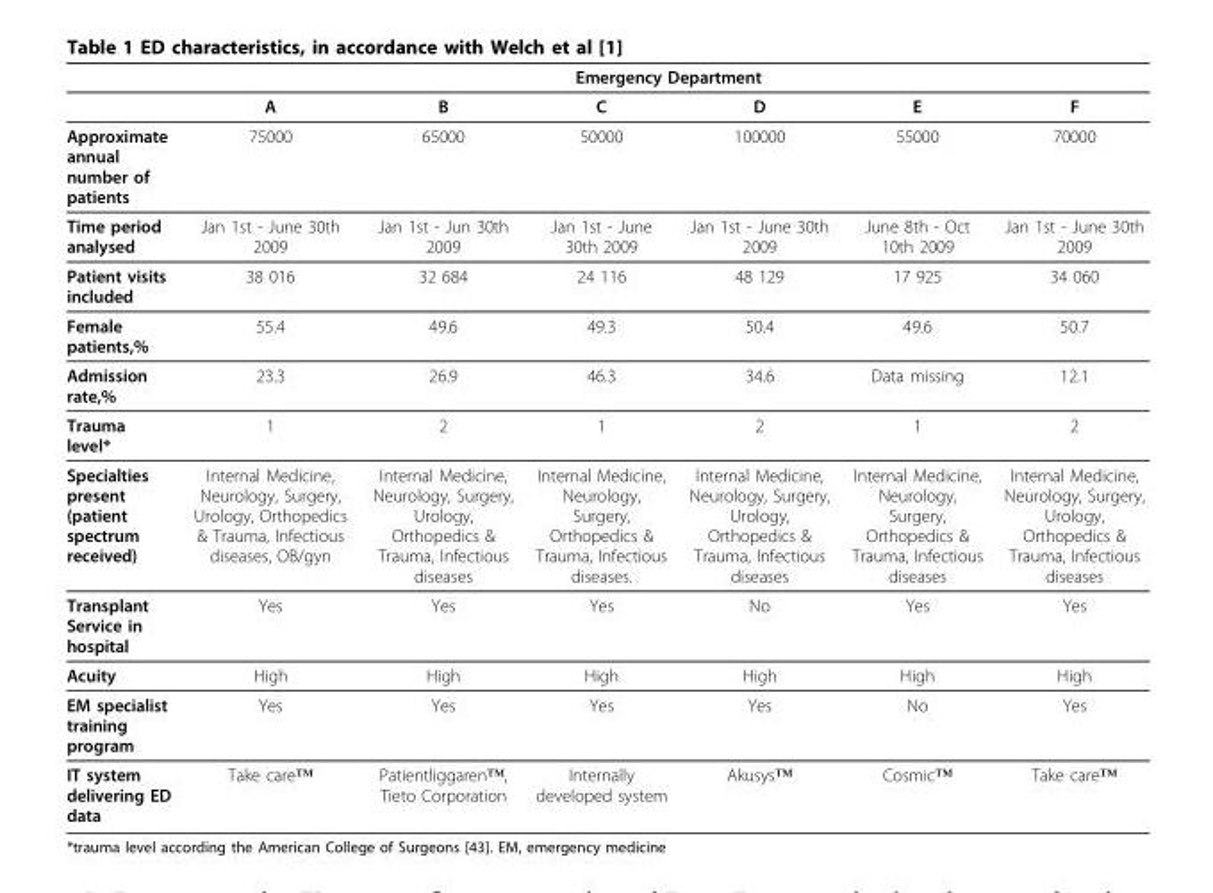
<table><thead><tr><td rowspan="2"></td><td colspan="6">Emergency Department</td></tr><tr><td>A</td><td>B</td><td>C</td><td>D</td><td>E</td><td>F</td></tr></thead><tbody><tr><td>Approximate annual number of patients</td><td>75000</td><td>65000</td><td>50000</td><td>100000</td><td>55000</td><td>70000</td></tr><tr><td>Time period analysed</td><td>Jan 1st - June 30th 2009</td><td>Jan 1st - Jun 30th 2009</td><td>Jan 1st - June 30th 2009</td><td>Jan 1st - June 30th 2009</td><td>June 8th - Oct 10th 2009</td><td>Jan 1st - June 30th 2009</td></tr><tr><td>Patient visits included</td><td>38 016</td><td>32 684</td><td>24 116</td><td>48 129</td><td>17 925</td><td>34 060</td></tr><tr><td>Female patients,%</td><td>55.4</td><td>49.6</td><td>49.3</td><td>50.4</td><td>49.6</td><td>50.7</td></tr><tr><td>Admission rate,%</td><td>23.3</td><td>26.9</td><td>46.3</td><td>34.6</td><td>Data missing</td><td>12.1</td></tr><tr><td>Trauma level*</td><td>1</td><td>2</td><td>1</td><td>2</td><td>1</td><td>2</td></tr><tr><td>Specialties present (patient spectrum received)</td><td>Internal Medicine, Neurology, Surgery, Urology, Orthopedics &amp; Trauma, Infectious diseases, OB/gyn</td><td>Internal Medicine, Neurology, Surgery, Urology, Orthopedics &amp; Trauma, Infectious diseases</td><td>Internal Medicine, Neurology, Surgery, Orthopedics &amp; Trauma, Infectious diseases.</td><td>Internal Medicine, Neurology, Surgery, Urology, Orthopedics &amp; Trauma, Infectious diseases</td><td>Internal Medicine, Neurology, Surgery, Orthopedics &amp; Trauma, Infectious diseases</td><td>Internal Medicine, Neurology, Surgery, Urology, Orthopedics &amp; Trauma, Infectious diseases</td></tr><tr><td>Transplant Service in hospital</td><td>Yes</td><td>Yes</td><td>Yes</td><td>No</td><td>Yes</td><td>Yes</td></tr><tr><td>Acuity</td><td>High</td><td>High</td><td>High</td><td>High</td><td>High</td><td>High</td></tr><tr><td>EM specialist training program</td><td>Yes</td><td>Yes</td><td>Yes</td><td>Yes</td><td>No</td><td>Yes</td></tr><tr><td>IT system delivering ED data</td><td>Take care™</td><td>Patientliggaren™, Tieto Corporation</td><td>Internally developed system</td><td>Akusys™</td><td>Cosmic™</td><td>Take care™</td></tr></tbody></table>